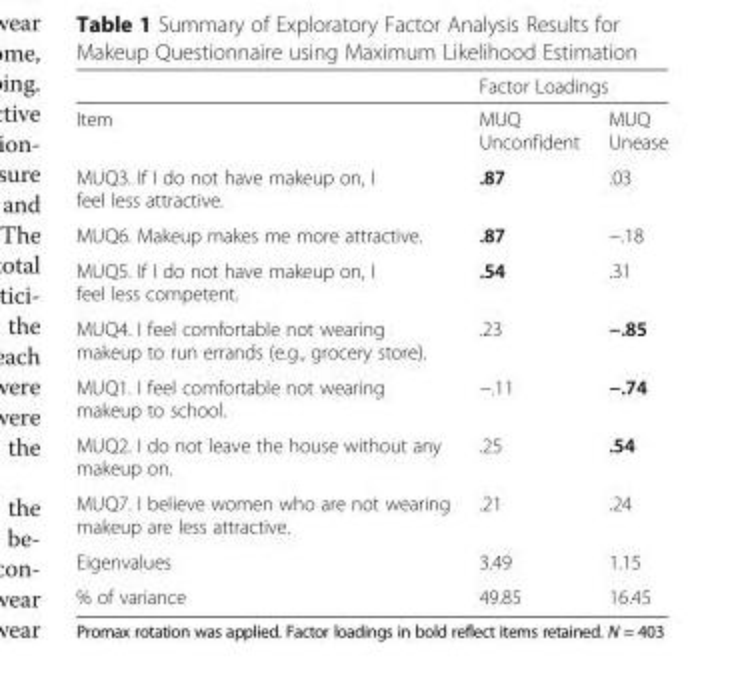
<table><thead><tr><td rowspan="2">Item</td><td colspan="2">Factor Loadings</td></tr><tr><td>MUQ Unconfident</td><td>MUQ Unease</td></tr></thead><tbody><tr><td>MUQ3. If I do not have makeup on, I feel less attractive.</td><td>.87</td><td>.03</td></tr><tr><td>MUQ6. Makeup makes me more attractive.</td><td>.87</td><td>−.18</td></tr><tr><td>MUQ5. If I do not have makeup on, I feel less competent.</td><td>.54</td><td>.31</td></tr><tr><td>MUQ4. I feel comfortable not wearing makeup to run errands (e.g., grocery store).</td><td>.23</td><td>−.85</td></tr><tr><td>MUQ1. I feel comfortable not wearing makeup to school.</td><td>−.11</td><td>−.74</td></tr><tr><td>MUQ2. I do not leave the house without any makeup on.</td><td>.25</td><td>.54</td></tr><tr><td>MUQ7. I believe women who are not wearing makeup are less attractive.</td><td>.21</td><td>.24</td></tr><tr><td>Eigenvalues</td><td>3.49</td><td>1.15</td></tr><tr><td>% of variance</td><td>49.85</td><td>16.45</td></tr></tbody></table>